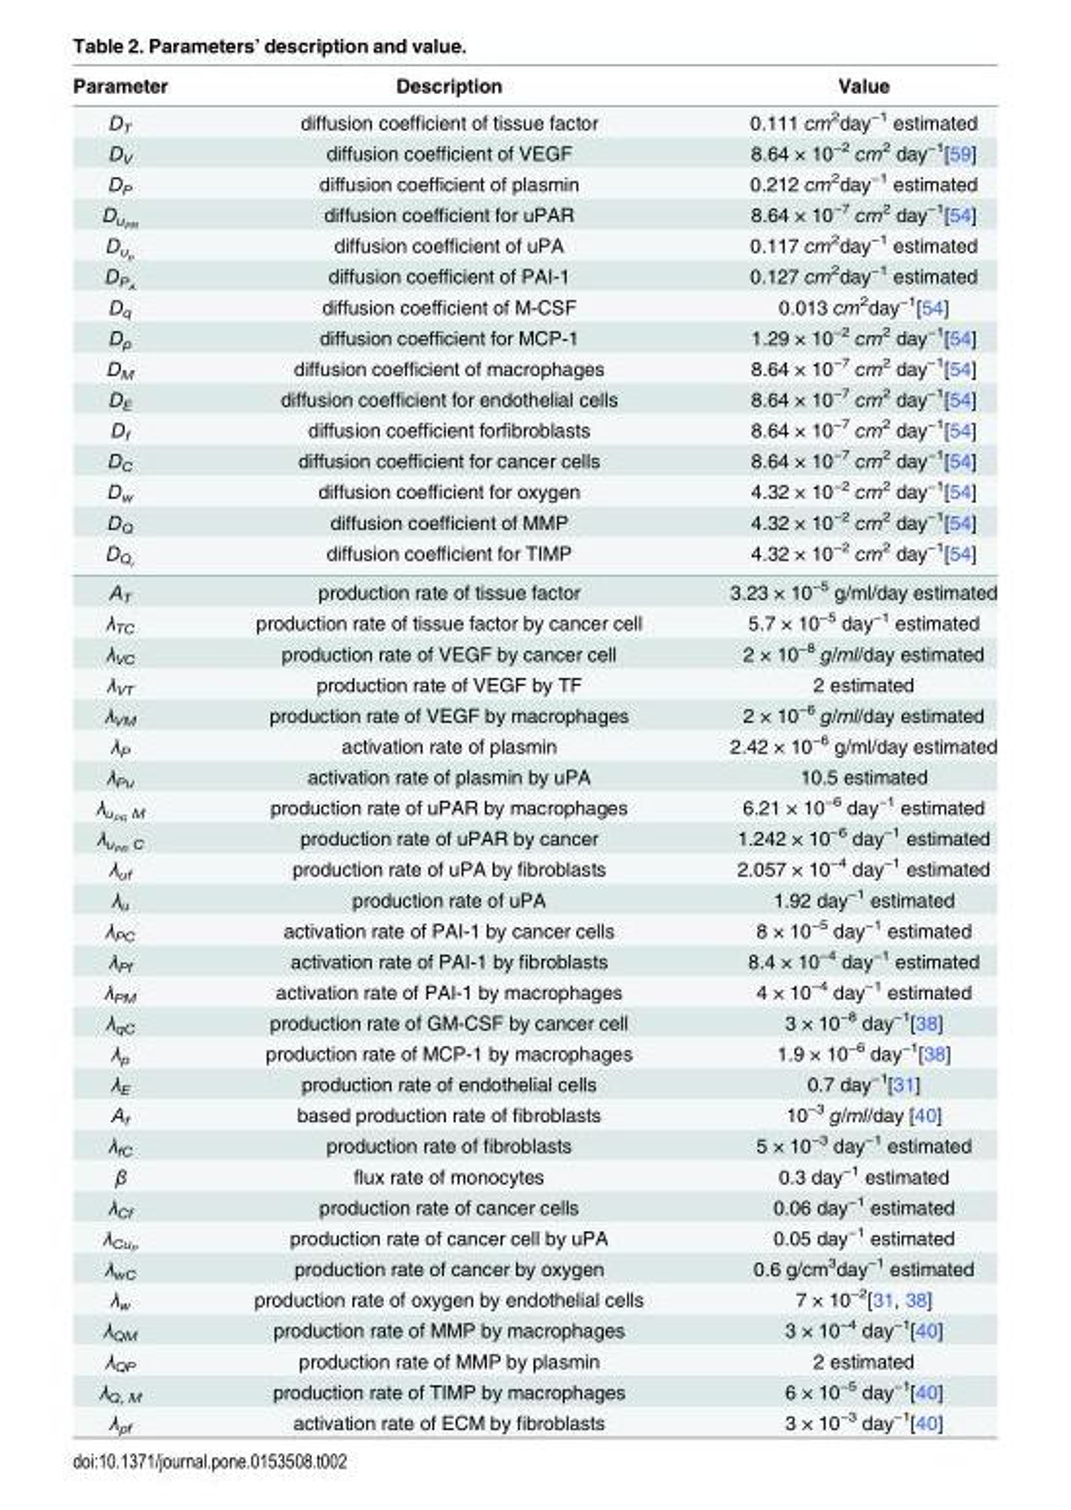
<table><thead><tr><td>Parameter</td><td>Description</td><td>Value</td></tr></thead><tbody><tr><td>D<sub>T</sub></td><td>diffusion coefficient of tissue factor</td><td>0.111 cm<sup>2</sup>day<sup>−1</sup> estimated</td></tr><tr><td>D<sub>V</sub></td><td>diffusion coefficient of VEGF</td><td>8.64 × 10<sup>−2</sup> cm<sup>2</sup> day<sup>−1</sup>[59]</td></tr><tr><td>D<sub>P</sub></td><td>diffusion coefficient of plasmin</td><td>0.212 cm<sup>2</sup>day<sup>−1</sup> estimated</td></tr><tr><td>DuPR</td><td>diffusion coefficient for uPAR</td><td>8.64 × 10<sup>−7</sup> cm<sup>2</sup> day<sup>−1</sup>[54]</td></tr><tr><td>Dup</td><td>diffusion coefficient of uPA</td><td>0.117 cm<sup>2</sup>day<sup>−1</sup> estimated</td></tr><tr><td>DPA</td><td>diffusion coefficient of PAI-1</td><td>0.127 cm<sup>2</sup>day<sup>−1</sup> estimated</td></tr><tr><td>D<sub>q</sub></td><td>diffusion coefficient of M-CSF</td><td>0.013 cm<sup>2</sup>day<sup>−1</sup>[54]</td></tr><tr><td>D<sub>p</sub></td><td>diffusion coefficient for MCP-1</td><td>1.29 × 10<sup>−2</sup> cm<sup>2</sup> day<sup>−1</sup>[54]</td></tr><tr><td>D<sub>M</sub></td><td>diffusion coefficient of macrophages</td><td>8.64 × 10<sup>−7</sup> cm<sup>2</sup> day<sup>−1</sup>[54]</td></tr><tr><td>D<sub>E</sub></td><td>diffusion coefficient for endothelial cells</td><td>8.64 × 10<sup>−7</sup> cm<sup>2</sup> day<sup>−1</sup>[54]</td></tr><tr><td>D<sub>f</sub></td><td>diffusion coefficient forfibroblasts</td><td>8.64 × 10<sup>−7</sup> cm<sup>2</sup> day<sup>−1</sup>[54]</td></tr><tr><td>D<sub>C</sub></td><td>diffusion coefficient for cancer cells</td><td>8.64 × 10<sup>−7</sup> cm<sup>2</sup> day<sup>−1</sup>[54]</td></tr><tr><td>D<sub>w</sub></td><td>diffusion coefficient for oxygen</td><td>4.32 × 10<sup>−2</sup> cm<sup>2</sup> day<sup>−1</sup>[54]</td></tr><tr><td>D<sub>Q</sub></td><td>diffusion coefficient of MMP</td><td>4.32 × 10<sup>−2</sup> cm<sup>2</sup> day<sup>−1</sup>[54]</td></tr><tr><td>DQr</td><td>diffusion coefficient for TIMP</td><td>4.32 × 10<sup>−2</sup> cm<sup>2</sup> day<sup>−1</sup>[54]</td></tr><tr><td>A<sub>T</sub></td><td>production rate of tissue factor</td><td>3.23 × 10<sup>−5</sup> g/ml/day estimated</td></tr><tr><td>λ<sub>TC</sub></td><td>production rate of tissue factor by cancer cell</td><td>5.7 × 10<sup>−5</sup> day<sup>−1</sup> estimated</td></tr><tr><td>λ<sub>VC</sub></td><td>production rate of VEGF by cancer cell</td><td>2 × 10<sup>−8</sup> g/ml/day estimated</td></tr><tr><td>λ<sub>VT</sub></td><td>production rate of VEGF by TF</td><td>2 estimated</td></tr><tr><td>λ<sub>VM</sub></td><td>production rate of VEGF by macrophages</td><td>2 × 10<sup>−6</sup> g/ml/day estimated</td></tr><tr><td>λ<sub>P</sub></td><td>activation rate of plasmin</td><td>2.42 × 10<sup>−6</sup> g/ml/day estimated</td></tr><tr><td>λ<sub>Pu</sub></td><td>activation rate of plasmin by uPA</td><td>10.5 estimated</td></tr><tr><td>λ<sub>u</sub>PR <sub>M</sub></td><td>production rate of uPAR by macrophages</td><td>6.21 × 10<sup>−6</sup> day<sup>−1</sup> estimated</td></tr><tr><td>λ<sub>u</sub>PR <sub>C</sub></td><td>production rate of uPAR by cancer</td><td>1.242 × 10<sup>−6</sup> day<sup>−1</sup> estimated</td></tr><tr><td>λ<sub>uf</sub></td><td>production rate of uPA by fibroblasts</td><td>2.057 × 10<sup>−4</sup> day<sup>−1</sup> estimated</td></tr><tr><td>λ<sub>u</sub></td><td>production rate of uPA</td><td>1.92 day<sup>−1</sup> estimated</td></tr><tr><td>λ<sub>PC</sub></td><td>activation rate of PAI-1 by cancer cells</td><td>8 × 10<sup>−5</sup> day<sup>−1</sup> estimated</td></tr><tr><td>λ<sub>Pf</sub></td><td>activation rate of PAI-1 by fibroblasts</td><td>8.4 × 10<sup>−4</sup> day<sup>−1</sup> estimated</td></tr><tr><td>λ<sub>PM</sub></td><td>activation rate of PAI-1 by macrophages</td><td>4 × 10<sup>−4</sup> day<sup>−1</sup> estimated</td></tr><tr><td>λ<sub>qC</sub></td><td>production rate of GM-CSF by cancer cell</td><td>3 × 10<sup>−8</sup> day<sup>−1</sup>[38]</td></tr><tr><td>λ<sub>p</sub></td><td>production rate of MCP-1 by macrophages</td><td>1.9 × 10<sup>−6</sup> day<sup>−1</sup>[38]</td></tr><tr><td>λ<sub>E</sub></td><td>production rate of endothelial cells</td><td>0.7 day<sup>−1</sup>[31]</td></tr><tr><td>A<sub>f</sub></td><td>based production rate of fibroblasts</td><td>10<sup>−3</sup> g/ml/day [40]</td></tr><tr><td>λ<sub>fC</sub></td><td>production rate of fibroblasts</td><td>5 × 10<sup>−3</sup> day<sup>−1</sup> estimated</td></tr><tr><td>β</td><td>flux rate of monocytes</td><td>0.3 day<sup>−1</sup> estimated</td></tr><tr><td>λ<sub>Cf</sub></td><td>production rate of cancer cells</td><td>0.06 day<sup>−1</sup> estimated</td></tr><tr><td>λCuP</td><td>production rate of cancer cell by uPA</td><td>0.05 day<sup>−1</sup> estimated</td></tr><tr><td>λ<sub>wC</sub></td><td>production rate of cancer by oxygen</td><td>0.6 g/cm<sup>3</sup>day<sup>−1</sup> estimated</td></tr><tr><td>λ<sub>w</sub></td><td>production rate of oxygen by endothelial cells</td><td>7 × 10<sup>−2</sup>[31, 38]</td></tr><tr><td>λ<sub>QM</sub></td><td>production rate of MMP by macrophages</td><td>3 × 10<sup>−4</sup> day<sup>−1</sup>[40]</td></tr><tr><td>λ<sub>QP</sub></td><td>production rate of MMP by plasmin</td><td>2 estimated</td></tr><tr><td>λ<sub>Q</sub>r <sub>M</sub></td><td>production rate of TIMP by macrophages</td><td>6 × 10<sup>−5</sup> day<sup>−1</sup>[40]</td></tr><tr><td>λ<sub>ρf</sub></td><td>activation rate of ECM by fibroblasts</td><td>3 × 10<sup>−3</sup> day<sup>−1</sup>[40]</td></tr></tbody></table>